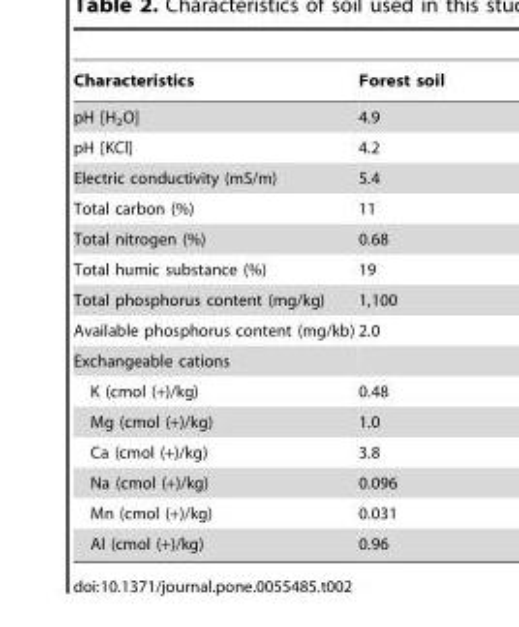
<table><thead><tr><td>Characteristics</td><td>Forest soil</td></tr></thead><tbody><tr><td>pH [H<sub>2</sub>O]</td><td>4.9</td></tr><tr><td>pH [KCl]</td><td>4.2</td></tr><tr><td>Electric conductivity (mS/m)</td><td>5.4</td></tr><tr><td>Total carbon (%)</td><td>11</td></tr><tr><td>Total nitrogen (%)</td><td>0.68</td></tr><tr><td>Total humic substance (%)</td><td>19</td></tr><tr><td>Total phosphorus content (mg/kg)</td><td>1,100</td></tr><tr><td>Available phosphorus content (mg/kb)</td><td>2.0</td></tr><tr><td colspan="2">Exchangeable cations</td></tr><tr><td>K (cmol (+)/kg)</td><td>0.48</td></tr><tr><td>Mg (cmol (+)/kg)</td><td>1.0</td></tr><tr><td>Ca (cmol (+)/kg)</td><td>3.8</td></tr><tr><td>Na (cmol (+)/kg)</td><td>0.096</td></tr><tr><td>Mn (cmol (+)/kg)</td><td>0.031</td></tr><tr><td>Al (cmol (+)/kg)</td><td>0.96</td></tr></tbody></table>